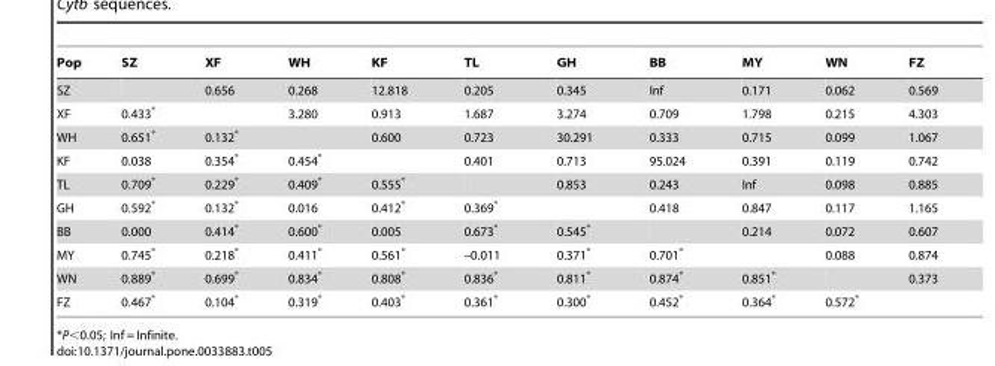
<table><thead><tr><td>Pop</td><td>SZ</td><td>XF</td><td>WH</td><td>KF</td><td>TL</td><td>GH</td><td>BB</td><td>MY</td><td>WN</td><td>FZ</td></tr></thead><tbody><tr><td>SZ</td><td></td><td>0.656</td><td>0.268</td><td>12.818</td><td>0.205</td><td>0.345</td><td>Inf</td><td>0.171</td><td>0.062</td><td>0.569</td></tr><tr><td>XF</td><td>0.433*</td><td></td><td>3.280</td><td>0.913</td><td>1.687</td><td>3.274</td><td>0.709</td><td>1.798</td><td>0.215</td><td>4.303</td></tr><tr><td>WH</td><td>0.651*</td><td>0.132*</td><td></td><td>0.600</td><td>0.723</td><td>30.291</td><td>0.333</td><td>0.715</td><td>0.099</td><td>1.067</td></tr><tr><td>KF</td><td>0.038</td><td>0.354*</td><td>0.454*</td><td></td><td>0.401</td><td>0.713</td><td>95.024</td><td>0.391</td><td>0.119</td><td>0.742</td></tr><tr><td>TL</td><td>0.709*</td><td>0.229*</td><td>0.409*</td><td>0.555*</td><td></td><td>0.853</td><td>0.243</td><td>Inf</td><td>0.098</td><td>0.885</td></tr><tr><td>GH</td><td>0.592*</td><td>0.132*</td><td>0.016</td><td>0.412*</td><td>0.369*</td><td></td><td>0.418</td><td>0.847</td><td>0.117</td><td>1.165</td></tr><tr><td>BB</td><td>0.000</td><td>0.414*</td><td>0.600*</td><td>0.005</td><td>0.673*</td><td>0.545*</td><td></td><td>0.214</td><td>0.072</td><td>0.607</td></tr><tr><td>MY</td><td>0.745*</td><td>0.218*</td><td>0.411*</td><td>0.561*</td><td>–0.011</td><td>0.371*</td><td>0.701*</td><td></td><td>0.088</td><td>0.874</td></tr><tr><td>WN</td><td>0.889*</td><td>0.699*</td><td>0.834*</td><td>0.808*</td><td>0.836*</td><td>0.811*</td><td>0.874*</td><td>0.851*</td><td></td><td>0.373</td></tr><tr><td>FZ</td><td>0.467*</td><td>0.104*</td><td>0.319*</td><td>0.403*</td><td>0.361*</td><td>0.300*</td><td>0.452*</td><td>0.364*</td><td>0.572*</td><td></td></tr></tbody></table>